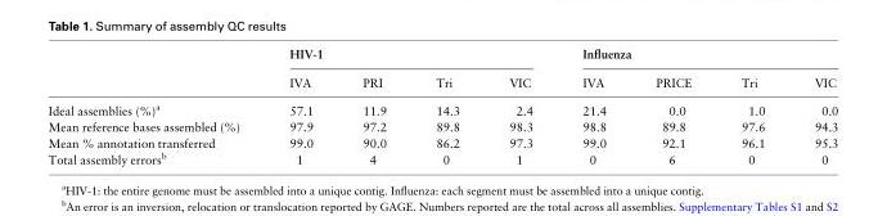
<table><thead><tr><td rowspan="2"></td><td colspan="4">HIV-1</td><td colspan="4">Influenza</td></tr><tr><td>IVA</td><td>PRI</td><td>Tri</td><td>VIC</td><td>IVA</td><td>PRICE</td><td>Tri</td><td>VIC</td></tr></thead><tbody><tr><td>Ideal assemblies (%)<sup>a</sup></td><td>57.1</td><td>11.9</td><td>14.3</td><td>2.4</td><td>21.4</td><td>0.0</td><td>1.0</td><td>0.0</td></tr><tr><td>Mean reference bases assembled (%)</td><td>97.9</td><td>97.2</td><td>89.8</td><td>98.3</td><td>98.8</td><td>89.8</td><td>97.6</td><td>94.3</td></tr><tr><td>Mean % annotation transferred</td><td>99.0</td><td>90.0</td><td>86.2</td><td>97.3</td><td>99.0</td><td>92.1</td><td>96.1</td><td>95.3</td></tr><tr><td>Total assembly errors<sup>b</sup></td><td>1</td><td>4</td><td>0</td><td>1</td><td>0</td><td>6</td><td>0</td><td>0</td></tr></tbody></table>